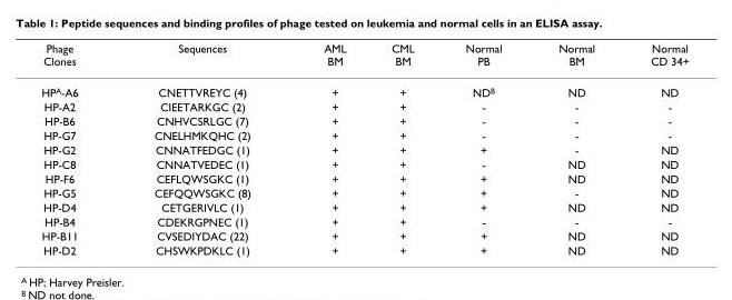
<table><thead><tr><td>Phage Clones</td><td>Sequences</td><td>AML BM</td><td>CML BM</td><td>Normal PB</td><td>Normal BM</td><td>Normal CD 34+</td></tr></thead><tbody><tr><td>HP<sup>A</sup>-A6</td><td>CNETTVREYC (4)</td><td>+</td><td>+</td><td>ND<sup>B</sup></td><td>ND</td><td>ND</td></tr><tr><td>HP-A2</td><td>CIEETARKGC (2)</td><td>+</td><td>+</td><td>-</td><td>-</td><td>-</td></tr><tr><td>HP-B6</td><td>CNHVCSRLGC (7)</td><td>+</td><td>+</td><td>-</td><td>-</td><td>-</td></tr><tr><td>HP-G7</td><td>CNELHMKQHC (2)</td><td>+</td><td>+</td><td>-</td><td>-</td><td>-</td></tr><tr><td>HP-G2</td><td>CNNATFEDGC (1)</td><td>+</td><td>+</td><td>+</td><td>-</td><td>ND</td></tr><tr><td>HP-C8</td><td>CNNATVEDEC (1)</td><td>+</td><td>+</td><td>-</td><td>ND</td><td>ND</td></tr><tr><td>HP-F6</td><td>CEFLQWSGKC (1)</td><td>+</td><td>+</td><td>+</td><td>ND</td><td>ND</td></tr><tr><td>HP-G5</td><td>CEFQQWSGKC (8)</td><td>+</td><td>+</td><td>+</td><td>-</td><td>ND</td></tr><tr><td>HP-D4</td><td>CETGERIVLC (1)</td><td>+</td><td>+</td><td>+</td><td>ND</td><td>ND</td></tr><tr><td>HP-B4</td><td>CDEKRGPNEC (1)</td><td>+</td><td>+</td><td>-</td><td>-</td><td>-</td></tr><tr><td>HP-B11</td><td>CVSEDIYDAC (22)</td><td>+</td><td>+</td><td>+</td><td>ND</td><td>ND</td></tr><tr><td>HP-D2</td><td>CHSWKPDKLC (1)</td><td>+</td><td>+</td><td>+</td><td>ND</td><td>ND</td></tr></tbody></table>